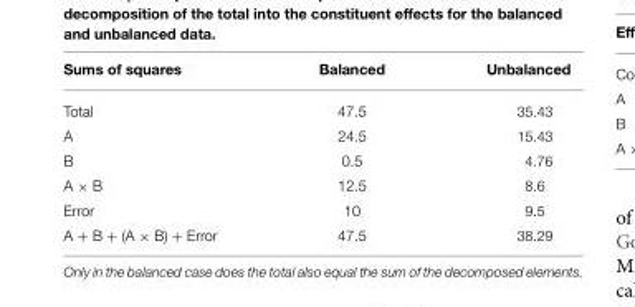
<table><thead><tr><td>Sums of squares</td><td>Balanced</td><td>Unbalanced</td></tr></thead><tbody><tr><td>Total</td><td>47.5</td><td>35.43</td></tr><tr><td>A</td><td>24.5</td><td>15.43</td></tr><tr><td>B</td><td>0.5</td><td>4.76</td></tr><tr><td>A × B</td><td>12.5</td><td>8.6</td></tr><tr><td>Error</td><td>10</td><td>9.5</td></tr><tr><td>A + B + (A × B) + Error</td><td>47.5</td><td>38.29</td></tr></tbody></table>